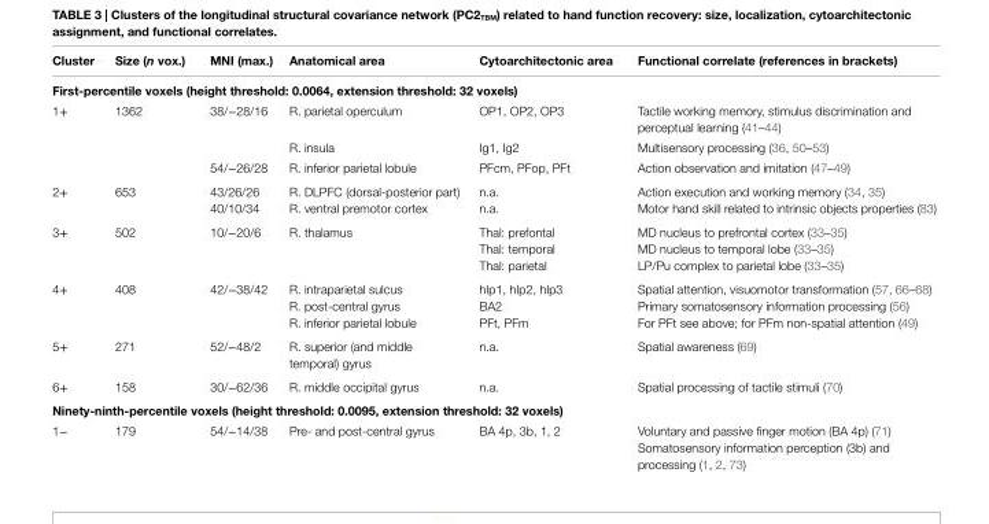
<table><thead><tr><td>cluster</td><td>size (n vox.)</td><td>Mni (max.)</td><td>anatomical area</td><td>cytoarchitectonic area</td><td>Functional correlate (references in brackets)</td></tr></thead><tbody><tr><td colspan="6">First-percentile voxels (height threshold: 0.0064, extension threshold: 32 voxels)</td></tr><tr><td rowspan="3">1+</td><td>1362</td><td>38/−28/16</td><td>R. parietal operculum</td><td>OP1, OP2, OP3</td><td>Tactile working memory, stimulus discrimination and perceptual learning (41–44)</td></tr><tr><td></td><td></td><td>R. insula</td><td>Ig1, Ig2</td><td>Multisensory processing (36, 50–53)</td></tr><tr><td></td><td>54/−26/28</td><td>R. inferior parietal lobule</td><td>PFcm, PFop, PFt</td><td>Action observation and imitation (47–49)</td></tr><tr><td>2+</td><td>653</td><td>43/26/26 40/10/34</td><td>R. DLPFC (dorsal-posterior part) R. ventral premotor cortex</td><td>n.a. n.a.</td><td>Action execution and working memory (34, 35) Motor hand skill related to intrinsic objects properties (83)</td></tr><tr><td>3+</td><td>502</td><td>10/−20/6</td><td>R. thalamus</td><td>Thal: prefontal Thal: temporal Thal: parietal</td><td>MD nucleus to prefrontal cortex (33–35) MD nucleus to temporal lobe (33–35) LP/Pu complex to parietal lobe (33–35)</td></tr><tr><td>4+</td><td>408</td><td>42/−38/42</td><td>R. intraparietal sulcus R. post-central gyrus R. inferior parietal lobule</td><td>hIp1, hIp2, hIp3 BA2 PFt, PFm</td><td>Spatial attention, visuomotor transformation (57, 66–68) Primary somatosensory information processing (56) For PFt see above; for PFm non-spatial attention (49)</td></tr><tr><td>5+</td><td>271</td><td>52/−48/2</td><td>R. superior (and middle temporal) gyrus</td><td>n.a.</td><td>Spatial awareness (69)</td></tr><tr><td>6+</td><td>158</td><td>30/−62/36</td><td>R. middle occipital gyrus</td><td>n.a.</td><td>Spatial processing of tactile stimuli (70)</td></tr><tr><td colspan="6">ninety-ninth-percentile voxels (height threshold: 0.0095, extension threshold: 32 voxels)</td></tr><tr><td>1−</td><td>179</td><td>54/−14/38</td><td>Pre- and post-central gyrus</td><td>BA 4p, 3b, 1, 2</td><td>Voluntary and passive finger motion (BA 4p) (71) Somatosensory information perception (3b) and processing (1, 2, 73)</td></tr></tbody></table>